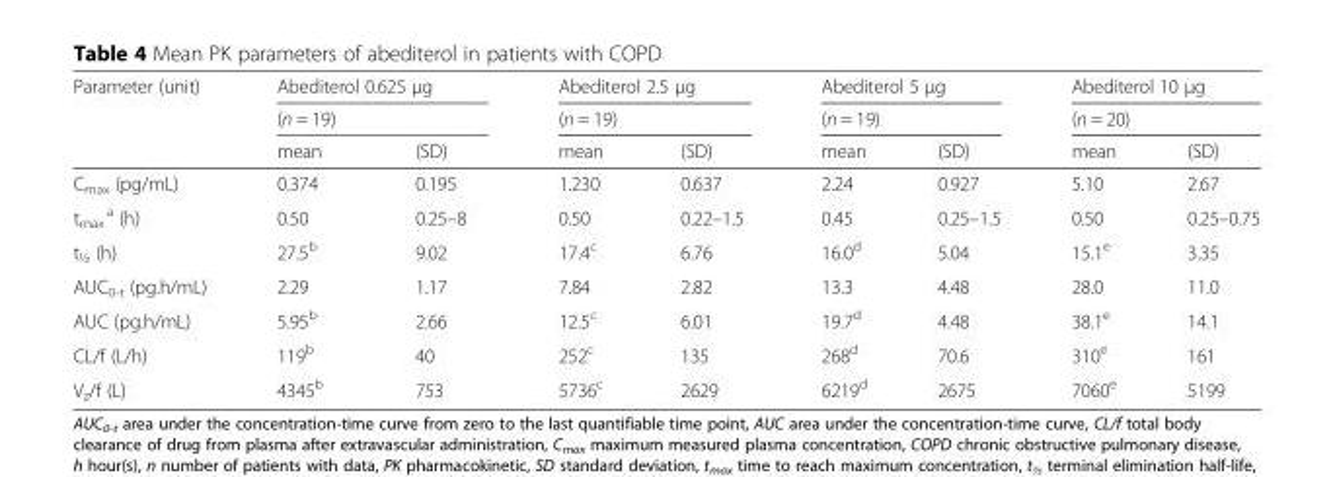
<table><thead><tr><td rowspan="3">Parameter (unit)</td><td rowspan="2" colspan="2">Abediterol 0.625 μg (n = 19)</td><td rowspan="2" colspan="2">Abediterol 2.5 μg (n = 19)</td><td rowspan="2" colspan="2">Abediterol 5 μg (n = 19)</td><td rowspan="2" colspan="2">Abediterol 10 μg (n = 20)</td></tr><tr></tr><tr><td>mean</td><td>(SD)</td><td>mean</td><td>(SD)</td><td>mean</td><td>(SD)</td><td>mean</td><td>(SD)</td></tr></thead><tbody><tr><td>C<sub>max</sub> (pg/mL)</td><td>0.374</td><td>0.195</td><td>1.230</td><td>0.637</td><td>2.24</td><td>0.927</td><td>5.10</td><td>2.67</td></tr><tr><td>t<sub>max</sub> <sup>a</sup> (h)</td><td>0.50</td><td>0.25–8</td><td>0.50</td><td>0.22–1.5</td><td>0.45</td><td>0.25–1.5</td><td>0.50</td><td>0.25–0.75</td></tr><tr><td>t<sub>½</sub> (h)</td><td>27.5<sup>b</sup></td><td>9.02</td><td>17.4<sup>c</sup></td><td>6.76</td><td>16.0<sup>d</sup></td><td>5.04</td><td>15.1<sup>e</sup></td><td>3.35</td></tr><tr><td>AUC<sub>0-t</sub> (pg.h/mL)</td><td>2.29</td><td>1.17</td><td>7.84</td><td>2.82</td><td>13.3</td><td>4.48</td><td>28.0</td><td>11.0</td></tr><tr><td>AUC (pg.h/mL)</td><td>5.95<sup>b</sup></td><td>2.66</td><td>12.5<sup>c</sup></td><td>6.01</td><td>19.7<sup>d</sup></td><td>4.48</td><td>38.1<sup>e</sup></td><td>14.1</td></tr><tr><td>CL/f (L/h)</td><td>119<sup>b</sup></td><td>40</td><td>252<sup>c</sup></td><td>135</td><td>268<sup>d</sup></td><td>70.6</td><td>310<sup>e</sup></td><td>161</td></tr><tr><td>V<sub>z</sub>/f (L)</td><td>4345<sup>b</sup></td><td>753</td><td>5736<sup>c</sup></td><td>2629</td><td>6219<sup>d</sup></td><td>2675</td><td>7060<sup>e</sup></td><td>5199</td></tr></tbody></table>